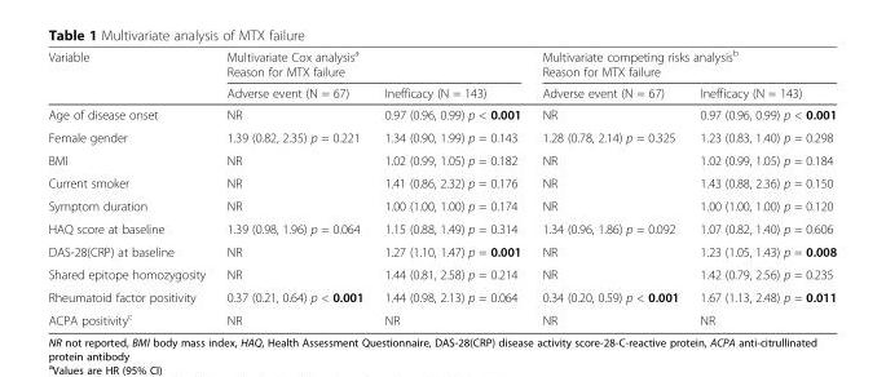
<table><thead><tr><td rowspan="3">Variable</td><td rowspan="2" colspan="2">Multivariate Cox analysis<sup>a</sup> Reason for MTX failure</td><td rowspan="2" colspan="2">Multivariate competing risks analysis<sup>b</sup> Reason for MTX failure</td></tr><tr></tr><tr><td>Adverse event (N = 67)</td><td>Inefficacy (N = 143)</td><td>Adverse event (N = 67)</td><td>Inefficacy (N = 143)</td></tr></thead><tbody><tr><td>Age of disease onset</td><td>NR</td><td>0.97 (0.96, 0.99) p &lt; 0.001</td><td>NR</td><td>0.97 (0.96, 0.99) p &lt; 0.001</td></tr><tr><td>Female gender</td><td>1.39 (0.82, 2.35) p = 0.221</td><td>1.34 (0.90, 1.99) p = 0.143</td><td>1.28 (0.78, 2.14) p = 0.325</td><td>1.23 (0.83, 1.40) p = 0.298</td></tr><tr><td>BMI</td><td>NR</td><td>1.02 (0.99, 1.05) p = 0.182</td><td>NR</td><td>1.02 (0.99, 1.05) p = 0.184</td></tr><tr><td>Current smoker</td><td>NR</td><td>1.41 (0.86, 2.32) p = 0.176</td><td>NR</td><td>1.43 (0.88, 2.36) p = 0.150</td></tr><tr><td>Symptom duration</td><td>NR</td><td>1.00 (1.00, 1.00) p = 0.174</td><td>NR</td><td>1.00 (1.00, 1.00) p = 0.120</td></tr><tr><td>HAQ score at baseline</td><td>1.39 (0.98, 1.96) p = 0.064</td><td>1.15 (0.88, 1.49) p = 0.314</td><td>1.34 (0.96, 1.86) p = 0.092</td><td>1.07 (0.82, 1.40) p = 0.606</td></tr><tr><td>DAS-28(CRP) at baseline</td><td>NR</td><td>1.27 (1.10, 1.47) p = 0.001</td><td>NR</td><td>1.23 (1.05, 1.43) p = 0.008</td></tr><tr><td>Shared epitope homozygosity</td><td>NR</td><td>1.44 (0.81, 2.58) p = 0.214</td><td>NR</td><td>1.42 (0.79, 2.56) p = 0.235</td></tr><tr><td>Rheumatoid factor positivity</td><td>0.37 (0.21, 0.64) p &lt; 0.001</td><td>1.44 (0.98, 2.13) p = 0.064</td><td>0.34 (0.20, 0.59) p &lt; 0.001</td><td>1.67 (1.13, 2.48) p = 0.011</td></tr><tr><td>ACPA positivity<sup>c</sup></td><td>NR</td><td>NR</td><td>NR</td><td>NR</td></tr></tbody></table>